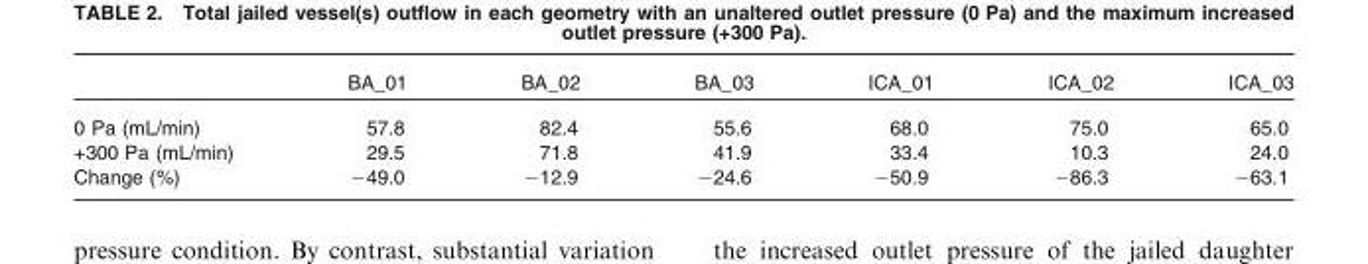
<table><thead><tr><td></td><td>BA_01</td><td>BA_02</td><td>BA_03</td><td>ICA_01</td><td>ICA_02</td><td>ICA_03</td></tr></thead><tbody><tr><td>0 Pa (mL/min)</td><td>57.8</td><td>82.4</td><td>55.6</td><td>68.0</td><td>75.0</td><td>65.0</td></tr><tr><td>+300 Pa (mL/min)</td><td>29.5</td><td>71.8</td><td>41.9</td><td>33.4</td><td>10.3</td><td>24.0</td></tr><tr><td>Change (%)</td><td>−49.0</td><td>−12.9</td><td>−24.6</td><td>−50.9</td><td>−86.3</td><td>−63.1</td></tr></tbody></table>